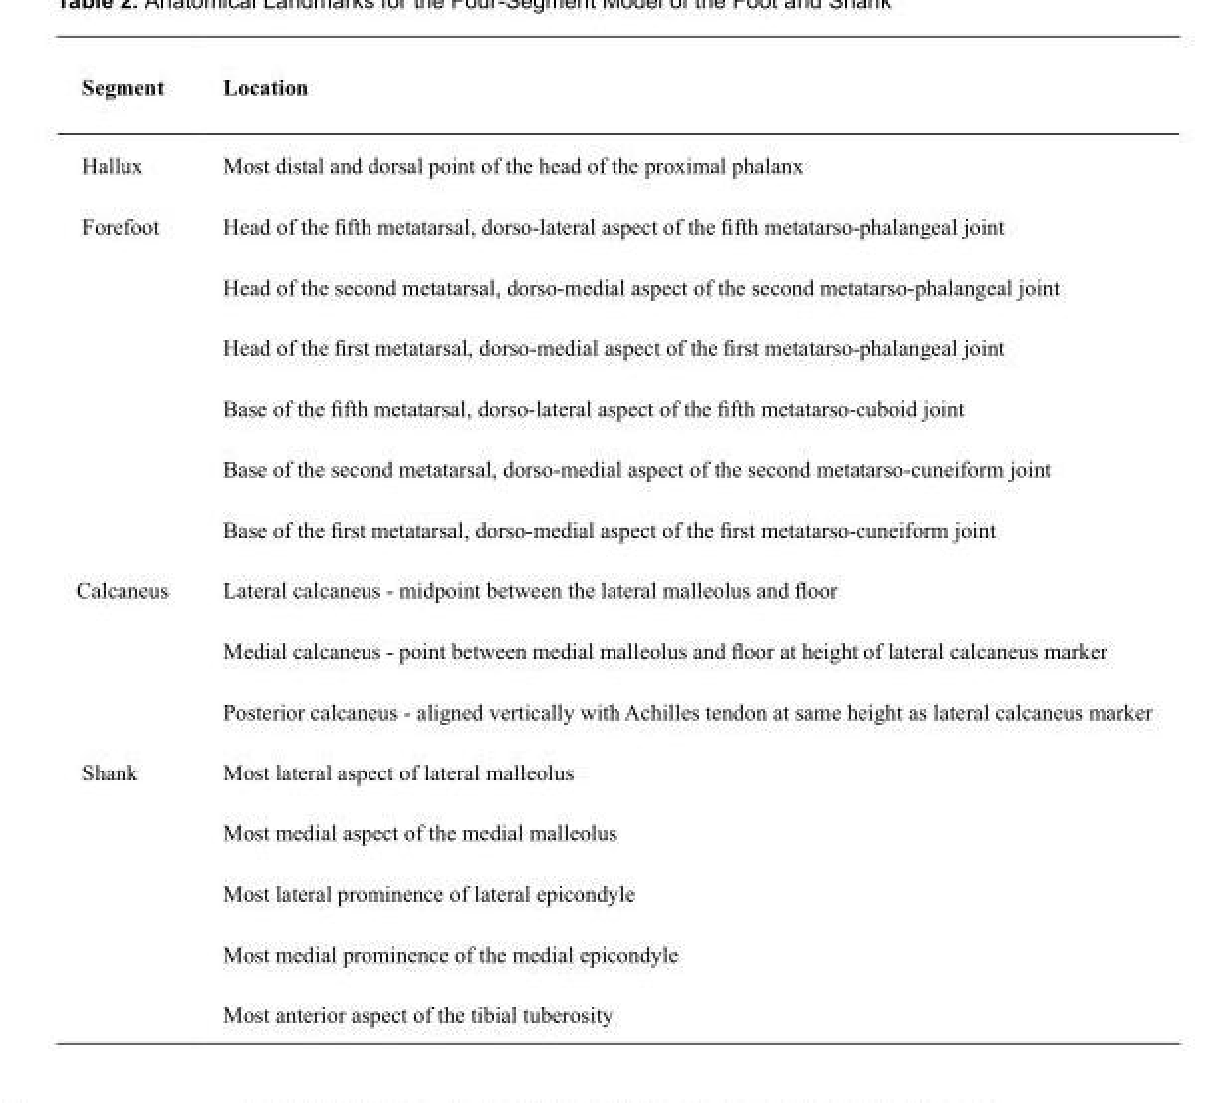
<table><thead><tr><td>Segment</td><td>Location</td></tr></thead><tbody><tr><td>Hallux</td><td>Most distal and dorsal point of the head of the proximal phalanx</td></tr><tr><td rowspan="6">Forefoot</td><td>Head of the fifth metatarsal, dorso-lateral aspect of the fifth metatarso-phalangeal joint</td></tr><tr><td>Head of the second metatarsal, dorso-medial aspect of the second metatarso-phalangeal joint</td></tr><tr><td>Head of the first metatarsal, dorso-medial aspect of the first metatarso-phalangeal joint</td></tr><tr><td>Base of the fifth metatarsal, dorso-lateral aspect of the fifth metatarso-cuboid joint</td></tr><tr><td>Base of the second metatarsal, dorso-medial aspect of the second metatarso-cuneiform joint</td></tr><tr><td>Base of the first metatarsal, dorso-medial aspect of the first metatarso-cuneiform joint</td></tr><tr><td rowspan="3">Calcaneus</td><td>Lateral calcaneus - midpoint between the lateral malleolus and floor</td></tr><tr><td>Medial calcaneus - point between medial malleolus and floor at height of lateral calcaneus marker</td></tr><tr><td>Posterior calcaneus - aligned vertically with Achilles tendon at same height as lateral calcaneus marker</td></tr><tr><td rowspan="5">Shank</td><td>Most lateral aspect of lateral malleolus</td></tr><tr><td>Most medial aspect of the medial malleolus</td></tr><tr><td>Most lateral prominence of lateral epicondyle</td></tr><tr><td>Most medial prominence of the medial epicondyle</td></tr><tr><td>Most anterior aspect of the tibial tuberosity</td></tr></tbody></table>